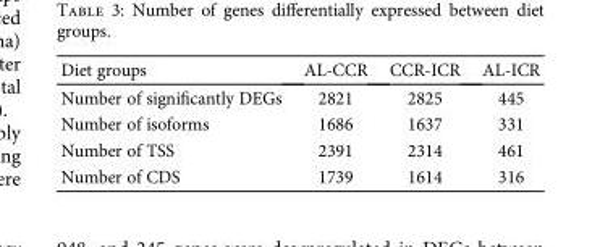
<table><thead><tr><td>Diet groups</td><td>AL-CCR</td><td>CCR-ICR</td><td>AL-ICR</td></tr></thead><tbody><tr><td>Number of significantly DEGs</td><td>2821</td><td>2825</td><td>445</td></tr><tr><td>Number of isoforms</td><td>1686</td><td>1637</td><td>331</td></tr><tr><td>Number of TSS</td><td>2391</td><td>2314</td><td>461</td></tr><tr><td>Number of CDS</td><td>1739</td><td>1614</td><td>316</td></tr></tbody></table>